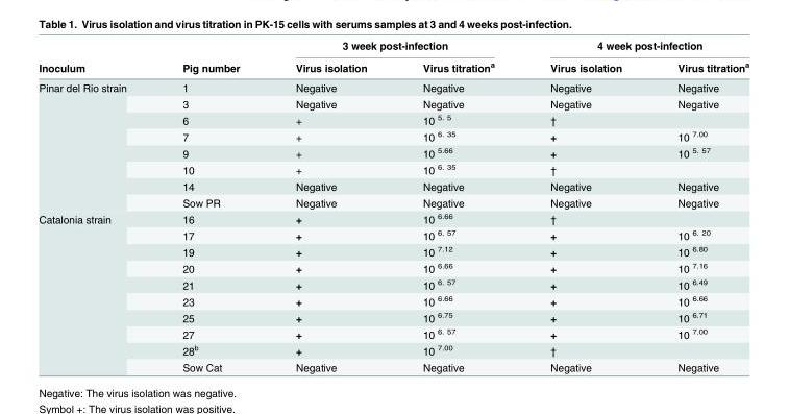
<table><thead><tr><td rowspan="2">Inoculum</td><td rowspan="2">Pig number</td><td colspan="2">3 week post-infection</td><td colspan="2">4 week post-infection</td></tr><tr><td>Virus isolation</td><td>Virus titration<sup>a</sup></td><td>Virus isolation</td><td>Virus titration<sup>a</sup></td></tr></thead><tbody><tr><td rowspan="8">Pinar del Rio strain</td><td>1</td><td>Negative</td><td>Negative</td><td>Negative</td><td>Negative</td></tr><tr><td>3</td><td>Negative</td><td>Negative</td><td>Negative</td><td>Negative</td></tr><tr><td>6</td><td>+</td><td>10 <sup>5. 5</sup></td><td>†</td><td></td></tr><tr><td>7</td><td>+</td><td>10 <sup>6. 35</sup></td><td>+</td><td>10 <sup>7.00</sup></td></tr><tr><td>9</td><td>+</td><td>10 <sup>5.66</sup></td><td>+</td><td>10 <sup>5. 57</sup></td></tr><tr><td>10</td><td>+</td><td>10 <sup>6. 35</sup></td><td>†</td><td></td></tr><tr><td>14</td><td>Negative</td><td>Negative</td><td>Negative</td><td>Negative</td></tr><tr><td>Sow PR</td><td>Negative</td><td>Negative</td><td>Negative</td><td>Negative</td></tr><tr><td rowspan="10">Catalonia strain</td><td>16</td><td>+</td><td>10 <sup>6.66</sup></td><td>†</td><td></td></tr><tr><td>17</td><td>+</td><td>10 <sup>6. 57</sup></td><td>+</td><td>10 <sup>6. 20</sup></td></tr><tr><td>19</td><td>+</td><td>10 <sup>7.12</sup></td><td>+</td><td>10 <sup>6.80</sup></td></tr><tr><td>20</td><td>+</td><td>10 <sup>6.66</sup></td><td>+</td><td>10 <sup>7.16</sup></td></tr><tr><td>21</td><td>+</td><td>10 <sup>6. 57</sup></td><td>+</td><td>10 <sup>6.49</sup></td></tr><tr><td>23</td><td>+</td><td>10 <sup>6.66</sup></td><td>+</td><td>10 <sup>6.66</sup></td></tr><tr><td>25</td><td>+</td><td>10 <sup>6.75</sup></td><td>+</td><td>10 <sup>6.71</sup></td></tr><tr><td>27</td><td>+</td><td>10 <sup>6. 57</sup></td><td>+</td><td>10 <sup>7.00</sup></td></tr><tr><td>28<sup>b</sup></td><td>+</td><td>10 <sup>7.00</sup></td><td>†</td><td></td></tr><tr><td>Sow Cat</td><td>Negative</td><td>Negative</td><td>Negative</td><td>Negative</td></tr></tbody></table>